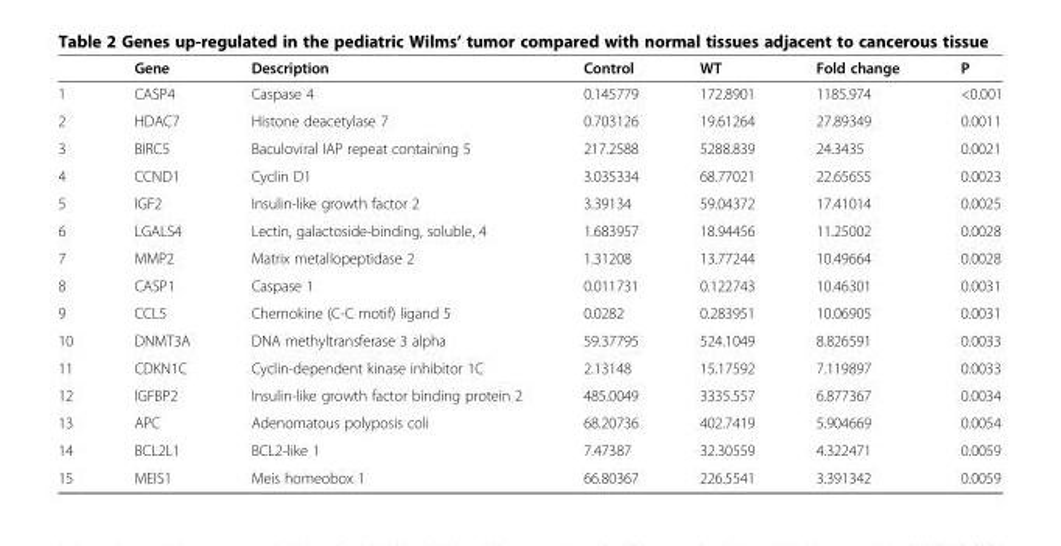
<table><thead><tr><td></td><td>Gene</td><td>Description</td><td>Control</td><td>WT</td><td>Fold change</td><td>P</td></tr></thead><tbody><tr><td>1</td><td>CASP4</td><td>Caspase 4</td><td>0.145779</td><td>172.8901</td><td>1185.974</td><td>&lt;0.001</td></tr><tr><td>2</td><td>HDAC7</td><td>Histone deacetylase 7</td><td>0.703126</td><td>19.61264</td><td>27.89349</td><td>0.0011</td></tr><tr><td>3</td><td>BIRC5</td><td>Baculoviral IAP repeat containing 5</td><td>217.2588</td><td>5288.839</td><td>24.3435</td><td>0.0021</td></tr><tr><td>4</td><td>CCND1</td><td>Cyclin D1</td><td>3.035334</td><td>68.77021</td><td>22.65655</td><td>0.0023</td></tr><tr><td>5</td><td>IGF2</td><td>Insulin-like growth factor 2</td><td>3.39134</td><td>59.04372</td><td>17.41014</td><td>0.0025</td></tr><tr><td>6</td><td>LGALS4</td><td>Lectin, galactoside-binding, soluble, 4</td><td>1.683957</td><td>18.94456</td><td>11.25002</td><td>0.0028</td></tr><tr><td>7</td><td>MMP2</td><td>Matrix metallopeptidase 2</td><td>1.31208</td><td>13.77244</td><td>10.49664</td><td>0.0028</td></tr><tr><td>8</td><td>CASP1</td><td>Caspase 1</td><td>0.011731</td><td>0.122743</td><td>10.46301</td><td>0.0031</td></tr><tr><td>9</td><td>CCL5</td><td>Chemokine (C-C motif) ligand 5</td><td>0.0282</td><td>0.283951</td><td>10.06905</td><td>0.0031</td></tr><tr><td>10</td><td>DNMT3A</td><td>DNA methyltransferase 3 alpha</td><td>59.37795</td><td>524.1049</td><td>8.826591</td><td>0.0033</td></tr><tr><td>11</td><td>CDKN1C</td><td>Cyclin-dependent kinase inhibitor 1C</td><td>2.13148</td><td>15.17592</td><td>7.119897</td><td>0.0033</td></tr><tr><td>12</td><td>IGFBP2</td><td>Insulin-like growth factor binding protein 2</td><td>485.0049</td><td>3335.557</td><td>6.877367</td><td>0.0034</td></tr><tr><td>13</td><td>APC</td><td>Adenomatous polyposis coli</td><td>68.20736</td><td>402.7419</td><td>5.904669</td><td>0.0054</td></tr><tr><td>14</td><td>BCL2L1</td><td>BCL2-like 1</td><td>7.47387</td><td>32.30559</td><td>4.322471</td><td>0.0059</td></tr><tr><td>15</td><td>MEIS1</td><td>Meis homeobox 1</td><td>66.80367</td><td>226.5541</td><td>3.391342</td><td>0.0059</td></tr></tbody></table>